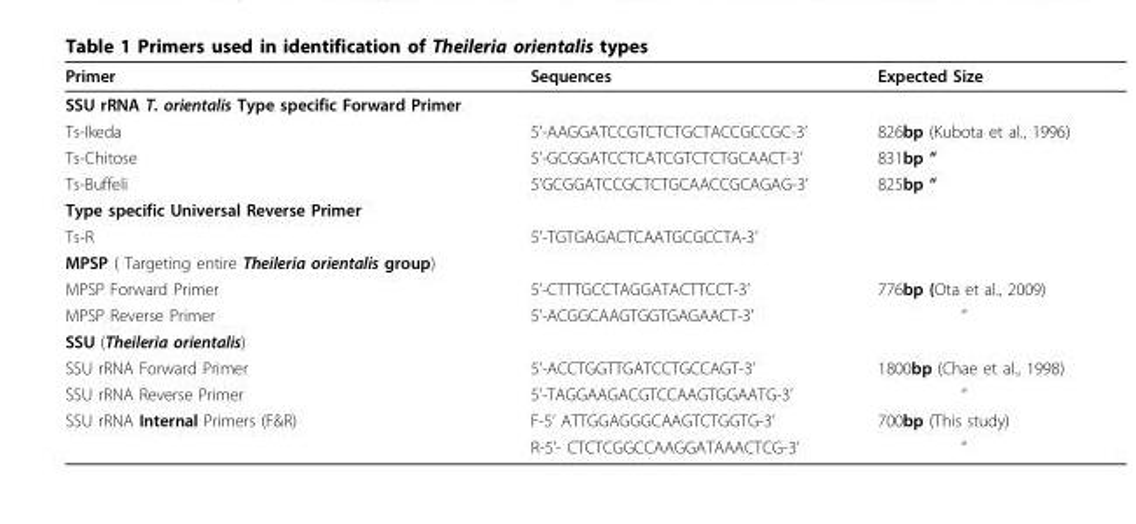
<table><thead><tr><td>Primer</td><td>Sequences</td><td>Expected Size</td></tr></thead><tbody><tr><td colspan="3">SSU rRNA T. orientalis Type specific Forward Primer</td></tr><tr><td>Ts-Ikeda</td><td>5’-AAGGATCCGTCTCTGCTACCGCCGC-3’</td><td>826bp (Kubota et al., 1996)</td></tr><tr><td>Ts-Chitose</td><td>5’-GCGGATCCTCATCGTCTCTGCAACT-3’</td><td>831bp “</td></tr><tr><td>Ts-Buffeli</td><td>5’GCGGATCCGCTCTGCAACCGCAGAG-3’</td><td>825bp “</td></tr><tr><td colspan="3">Type specific Universal Reverse Primer</td></tr><tr><td>Ts-R</td><td>5’-TGTGAGACTCAATGCGCCTA-3’</td><td></td></tr><tr><td colspan="3">MPSP ( Targeting entire Theileria orientalis group)</td></tr><tr><td>MPSP Forward Primer</td><td>5’-CTTTGCCTAGGATACTTCCT-3’</td><td>776bp (Ota et al., 2009)</td></tr><tr><td>MPSP Reverse Primer</td><td>5’-ACGGCAAGTGGTGAGAACT-3’</td><td>“</td></tr><tr><td colspan="3">SSU (Theileria orientalis)</td></tr><tr><td>SSU rRNA Forward Primer</td><td>5’-ACCTGGTTGATCCTGCCAGT-3’</td><td>1800bp (Chae et al., 1998)</td></tr><tr><td>SSU rRNA Reverse Primer</td><td>5’-TAGGAAGACGTCCAAGTGGAATG-3’</td><td>“</td></tr><tr><td rowspan="2">SSU rRNA Internal Primers (F&amp;R)</td><td>F-5’ ATTGGAGGGCAAGTCTGGTG-3’</td><td>700bp (This study)</td></tr><tr><td>R-5’- CTCTCGGCCAAGGATAAACTCG-3’</td><td>“</td></tr></tbody></table>